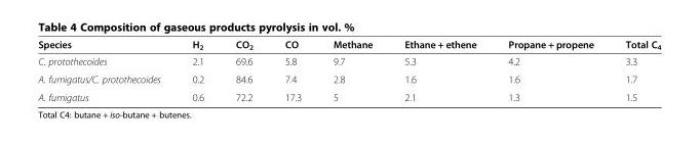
<table><thead><tr><td>Species</td><td>H<sub>2</sub></td><td>CO<sub>2</sub></td><td>CO</td><td>Methane</td><td>Ethane + ethene</td><td>Propane + propene</td><td>Total C<sub>4</sub></td></tr></thead><tbody><tr><td>C. protothecoides</td><td>2.1</td><td>69.6</td><td>5.8</td><td>9.7</td><td>5.3</td><td>4.2</td><td>3.3</td></tr><tr><td>A. fumigatus/C. protothecoides</td><td>0.2</td><td>84.6</td><td>7.4</td><td>2.8</td><td>1.6</td><td>1.6</td><td>1.7</td></tr><tr><td>A. fumigatus</td><td>0.6</td><td>72.2</td><td>17.3</td><td>5</td><td>2.1</td><td>1.3</td><td>1.5</td></tr></tbody></table>